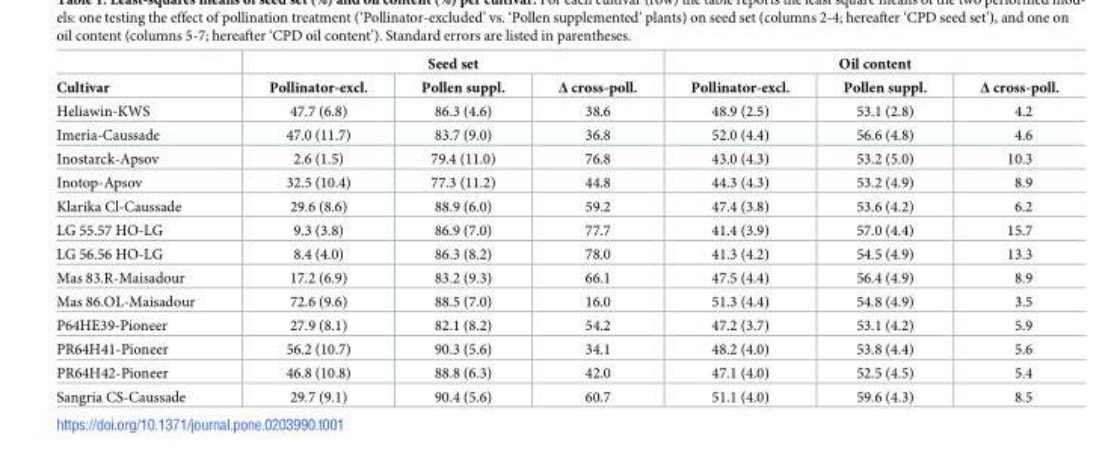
<table><thead><tr><td rowspan="2">Cultivar</td><td colspan="3">Seed set</td><td colspan="3">Oil content</td></tr><tr><td>Pollinator-excl.</td><td>Pollen suppl.</td><td>Δ cross-poll.</td><td>Pollinator-excl.</td><td>Pollen suppl.</td><td>Δ cross-poll.</td></tr></thead><tbody><tr><td>Heliawin-KWS</td><td>47.7 (6.8)</td><td>86.3 (4.6)</td><td>38.6</td><td>48.9 (2.5)</td><td>53.1 (2.8)</td><td>4.2</td></tr><tr><td>Imeria-Caussade</td><td>47.0 (11.7)</td><td>83.7 (9.0)</td><td>36.8</td><td>52.0 (4.4)</td><td>56.6 (4.8)</td><td>4.6</td></tr><tr><td>Inostarck-Apsov</td><td>2.6 (1.5)</td><td>79.4 (11.0)</td><td>76.8</td><td>43.0 (4.3)</td><td>53.2 (5.0)</td><td>10.3</td></tr><tr><td>Inotop-Apsov</td><td>32.5 (10.4)</td><td>77.3 (11.2)</td><td>44.8</td><td>44.3 (4.3)</td><td>53.2 (4.9)</td><td>8.9</td></tr><tr><td>Klarika Cl-Caussade</td><td>29.6 (8.6)</td><td>88.9 (6.0)</td><td>59.2</td><td>47.4 (3.8)</td><td>53.6 (4.2)</td><td>6.2</td></tr><tr><td>LG 55.57 HO-LG</td><td>9.3 (3.8)</td><td>86.9 (7.0)</td><td>77.7</td><td>41.4 (3.9)</td><td>57.0 (4.4)</td><td>15.7</td></tr><tr><td>LG 56.56 HO-LG</td><td>8.4 (4.0)</td><td>86.3 (8.2)</td><td>78.0</td><td>41.3 (4.2)</td><td>54.5 (4.9)</td><td>13.3</td></tr><tr><td>Mas 83.R-Maisadour</td><td>17.2 (6.9)</td><td>83.2 (9.3)</td><td>66.1</td><td>47.5 (4.4)</td><td>56.4 (4.9)</td><td>8.9</td></tr><tr><td>Mas 86.OL-Maisadour</td><td>72.6 (9.6)</td><td>88.5 (7.0)</td><td>16.0</td><td>51.3 (4.4)</td><td>54.8 (4.9)</td><td>3.5</td></tr><tr><td>P64HE39-Pioneer</td><td>27.9 (8.1)</td><td>82.1 (8.2)</td><td>54.2</td><td>47.2 (3.7)</td><td>53.1 (4.2)</td><td>5.9</td></tr><tr><td>PR64H41-Pioneer</td><td>56.2 (10.7)</td><td>90.3 (5.6)</td><td>34.1</td><td>48.2 (4.0)</td><td>53.8 (4.4)</td><td>5.6</td></tr><tr><td>PR64H42-Pioneer</td><td>46.8 (10.8)</td><td>88.8 (6.3)</td><td>42.0</td><td>47.1 (4.0)</td><td>52.5 (4.5)</td><td>5.4</td></tr><tr><td>Sangria CS-Caussade</td><td>29.7 (9.1)</td><td>90.4 (5.6)</td><td>60.7</td><td>51.1 (4.0)</td><td>59.6 (4.3)</td><td>8.5</td></tr></tbody></table>